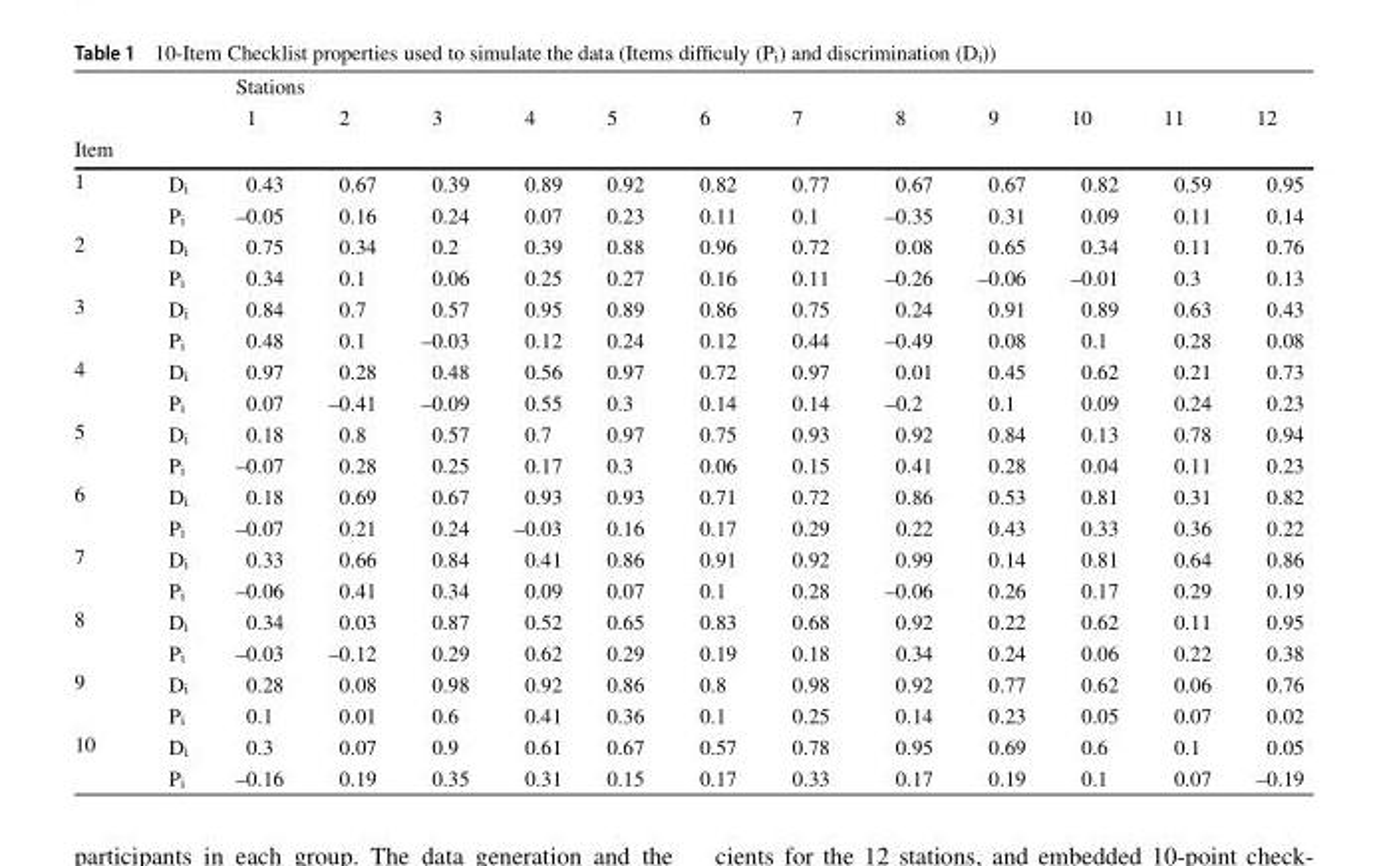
<table><thead><tr><td rowspan="2"></td><td rowspan="2"></td><td colspan="12">Stations</td></tr><tr><td rowspan="2">1</td><td rowspan="2">2</td><td rowspan="2">3</td><td rowspan="2">4</td><td rowspan="2">5</td><td rowspan="2">6</td><td rowspan="2">7</td><td rowspan="2">8</td><td rowspan="2">9</td><td rowspan="2">10</td><td rowspan="2">11</td><td rowspan="2">12</td></tr><tr><td colspan="2">Item</td></tr></thead><tbody><tr><td rowspan="2">1</td><td>D<sub>i</sub></td><td>0.43</td><td>0.67</td><td>0.39</td><td>0.89</td><td>0.92</td><td>0.82</td><td>0.77</td><td>0.67</td><td>0.67</td><td>0.82</td><td>0.59</td><td>0.95</td></tr><tr><td>P<sub>i</sub></td><td>–0.05</td><td>0.16</td><td>0.24</td><td>0.07</td><td>0.23</td><td>0.11</td><td>0.1</td><td>–0.35</td><td>0.31</td><td>0.09</td><td>0.11</td><td>0.14</td></tr><tr><td rowspan="2">2</td><td>D<sub>i</sub></td><td>0.75</td><td>0.34</td><td>0.2</td><td>0.39</td><td>0.88</td><td>0.96</td><td>0.72</td><td>0.08</td><td>0.65</td><td>0.34</td><td>0.11</td><td>0.76</td></tr><tr><td>P<sub>i</sub></td><td>0.34</td><td>0.1</td><td>0.06</td><td>0.25</td><td>0.27</td><td>0.16</td><td>0.11</td><td>–0.26</td><td>–0.06</td><td>–0.01</td><td>0.3</td><td>0.13</td></tr><tr><td rowspan="2">3</td><td>D<sub>i</sub></td><td>0.84</td><td>0.7</td><td>0.57</td><td>0.95</td><td>0.89</td><td>0.86</td><td>0.75</td><td>0.24</td><td>0.91</td><td>0.89</td><td>0.63</td><td>0.43</td></tr><tr><td>P<sub>i</sub></td><td>0.48</td><td>0.1</td><td>–0.03</td><td>0.12</td><td>0.24</td><td>0.12</td><td>0.44</td><td>–0.49</td><td>0.08</td><td>0.1</td><td>0.28</td><td>0.08</td></tr><tr><td rowspan="2">4</td><td>D<sub>i</sub></td><td>0.97</td><td>0.28</td><td>0.48</td><td>0.56</td><td>0.97</td><td>0.72</td><td>0.97</td><td>0.01</td><td>0.45</td><td>0.62</td><td>0.21</td><td>0.73</td></tr><tr><td>P<sub>i</sub></td><td>0.07</td><td>–0.41</td><td>–0.09</td><td>0.55</td><td>0.3</td><td>0.14</td><td>0.14</td><td>–0.2</td><td>0.1</td><td>0.09</td><td>0.24</td><td>0.23</td></tr><tr><td rowspan="2">5</td><td>D<sub>i</sub></td><td>0.18</td><td>0.8</td><td>0.57</td><td>0.7</td><td>0.97</td><td>0.75</td><td>0.93</td><td>0.92</td><td>0.84</td><td>0.13</td><td>0.78</td><td>0.94</td></tr><tr><td>P<sub>i</sub></td><td>–0.07</td><td>0.28</td><td>0.25</td><td>0.17</td><td>0.3</td><td>0.06</td><td>0.15</td><td>0.41</td><td>0.28</td><td>0.04</td><td>0.11</td><td>0.23</td></tr><tr><td rowspan="2">6</td><td>D<sub>i</sub></td><td>0.18</td><td>0.69</td><td>0.67</td><td>0.93</td><td>0.93</td><td>0.71</td><td>0.72</td><td>0.86</td><td>0.53</td><td>0.81</td><td>0.31</td><td>0.82</td></tr><tr><td>P<sub>i</sub></td><td>–0.07</td><td>0.21</td><td>0.24</td><td>–0.03</td><td>0.16</td><td>0.17</td><td>0.29</td><td>0.22</td><td>0.43</td><td>0.33</td><td>0.36</td><td>0.22</td></tr><tr><td rowspan="2">7</td><td>D<sub>i</sub></td><td>0.33</td><td>0.66</td><td>0.84</td><td>0.41</td><td>0.86</td><td>0.91</td><td>0.92</td><td>0.99</td><td>0.14</td><td>0.81</td><td>0.64</td><td>0.86</td></tr><tr><td>P<sub>i</sub></td><td>–0.06</td><td>0.41</td><td>0.34</td><td>0.09</td><td>0.07</td><td>0.1</td><td>0.28</td><td>–0.06</td><td>0.26</td><td>0.17</td><td>0.29</td><td>0.19</td></tr><tr><td rowspan="2">8</td><td>D<sub>i</sub></td><td>0.34</td><td>0.03</td><td>0.87</td><td>0.52</td><td>0.65</td><td>0.83</td><td>0.68</td><td>0.92</td><td>0.22</td><td>0.62</td><td>0.11</td><td>0.95</td></tr><tr><td>P<sub>i</sub></td><td>–0.03</td><td>–0.12</td><td>0.29</td><td>0.62</td><td>0.29</td><td>0.19</td><td>0.18</td><td>0.34</td><td>0.24</td><td>0.06</td><td>0.22</td><td>0.38</td></tr><tr><td rowspan="2">9</td><td>D<sub>i</sub></td><td>0.28</td><td>0.08</td><td>0.98</td><td>0.92</td><td>0.86</td><td>0.8</td><td>0.98</td><td>0.92</td><td>0.77</td><td>0.62</td><td>0.06</td><td>0.76</td></tr><tr><td>P<sub>i</sub></td><td>0.1</td><td>0.01</td><td>0.6</td><td>0.41</td><td>0.36</td><td>0.1</td><td>0.25</td><td>0.14</td><td>0.23</td><td>0.05</td><td>0.07</td><td>0.02</td></tr><tr><td rowspan="2">10</td><td>D<sub>i</sub></td><td>0.3</td><td>0.07</td><td>0.9</td><td>0.61</td><td>0.67</td><td>0.57</td><td>0.78</td><td>0.95</td><td>0.69</td><td>0.6</td><td>0.1</td><td>0.05</td></tr><tr><td>P<sub>i</sub></td><td>–0.16</td><td>0.19</td><td>0.35</td><td>0.31</td><td>0.15</td><td>0.17</td><td>0.33</td><td>0.17</td><td>0.19</td><td>0.1</td><td>0.07</td><td>–0.19</td></tr></tbody></table>